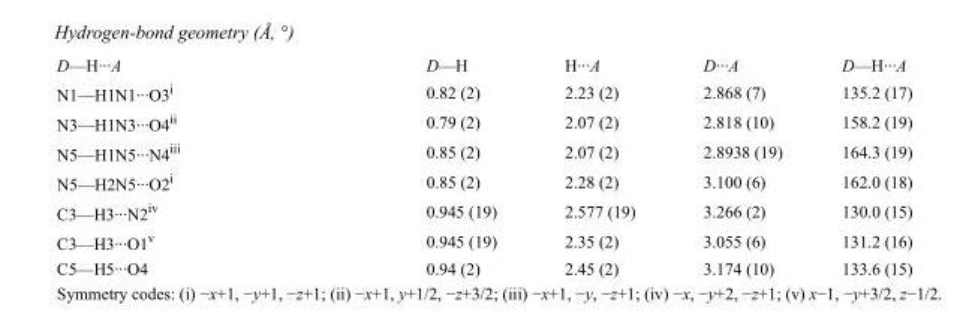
<table><tbody><tr><td>D—H···A</td><td>D—H</td><td>H···A</td><td>D···A</td><td>D—H···A</td></tr><tr><td>N1—H1N1···O3<sup>i</sup></td><td>0.82 (2)</td><td>2.23 (2)</td><td>2.868 (7)</td><td>135.2 (17)</td></tr><tr><td>N3—H1N3···O4<sup>ii</sup></td><td>0.79 (2)</td><td>2.07 (2)</td><td>2.818 (10)</td><td>158.2 (19)</td></tr><tr><td>N5—H1N5···N4<sup>iii</sup></td><td>0.85 (2)</td><td>2.07 (2)</td><td>2.8938 (19)</td><td>164.3 (19)</td></tr><tr><td>N5—H2N5···O2<sup>i</sup></td><td>0.85 (2)</td><td>2.28 (2)</td><td>3.100 (6)</td><td>162.0 (18)</td></tr><tr><td>C3—H3···N2<sup>iv</sup></td><td>0.945 (19)</td><td>2.577 (19)</td><td>3.266 (2)</td><td>130.0 (15)</td></tr><tr><td>C3—H3···O1<sup>v</sup></td><td>0.945 (19)</td><td>2.35 (2)</td><td>3.055 (6)</td><td>131.2 (16)</td></tr><tr><td>C5—H5···O4</td><td>0.94 (2)</td><td>2.45 (2)</td><td>3.174 (10)</td><td>133.6 (15)</td></tr></tbody></table>